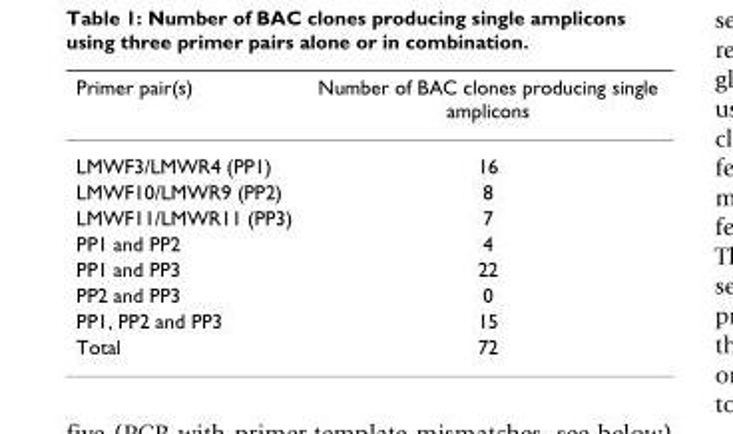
<table><thead><tr><td>Primer pair(s)</td><td>Number of BAC clones producing single amplicons</td></tr></thead><tbody><tr><td>LMWF3/LMWR4 (PP1)</td><td>16</td></tr><tr><td>LMWF10/LMWR9 (PP2)</td><td>8</td></tr><tr><td>LMWF11/LMWR11 (PP3)</td><td>7</td></tr><tr><td>PP1 and PP2</td><td>4</td></tr><tr><td>PP1 and PP3</td><td>22</td></tr><tr><td>PP2 and PP3</td><td>0</td></tr><tr><td>PP1, PP2 and PP3</td><td>15</td></tr><tr><td>Total</td><td>72</td></tr></tbody></table>